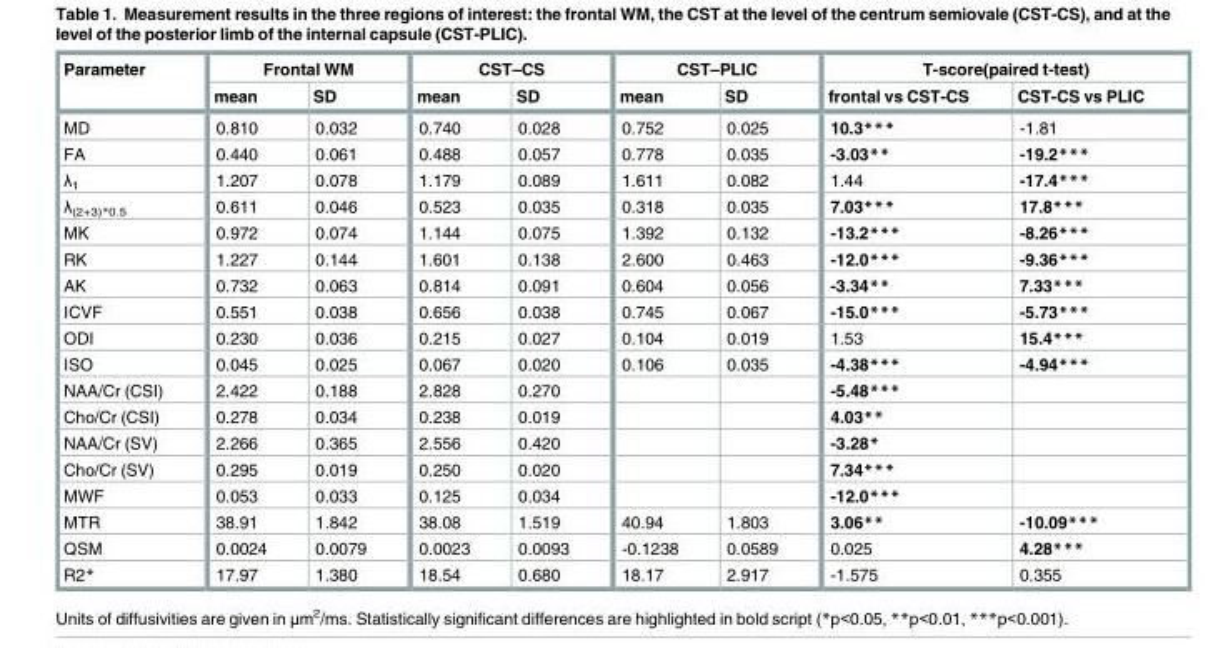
<table><thead><tr><td rowspan="2">Parameter</td><td colspan="2">Frontal WM</td><td colspan="2">CST–CS</td><td colspan="2">CST–PLIC</td><td colspan="2">T-score(paired t-test)</td></tr><tr><td>mean</td><td>SD</td><td>mean</td><td>SD</td><td>mean</td><td>SD</td><td>frontal vs CST-CS</td><td>CST-CS vs PLIC</td></tr></thead><tbody><tr><td>MD</td><td>0.810</td><td>0.032</td><td>0.740</td><td>0.028</td><td>0.752</td><td>0.025</td><td>10.3***</td><td>-1.81</td></tr><tr><td>FA</td><td>0.440</td><td>0.061</td><td>0.488</td><td>0.057</td><td>0.778</td><td>0.035</td><td>-3.03**</td><td>-19.2***</td></tr><tr><td>λ<sub>1</sub></td><td>1.207</td><td>0.078</td><td>1.179</td><td>0.089</td><td>1.611</td><td>0.082</td><td>1.44</td><td>-17.4***</td></tr><tr><td>λ<sub>(2+3)*0.5</sub></td><td>0.611</td><td>0.046</td><td>0.523</td><td>0.035</td><td>0.318</td><td>0.035</td><td>7.03***</td><td>17.8***</td></tr><tr><td>MK</td><td>0.972</td><td>0.074</td><td>1.144</td><td>0.075</td><td>1.392</td><td>0.132</td><td>-13.2***</td><td>-8.26***</td></tr><tr><td>RK</td><td>1.227</td><td>0.144</td><td>1.601</td><td>0.138</td><td>2.600</td><td>0.463</td><td>-12.0***</td><td>-9.36***</td></tr><tr><td>AK</td><td>0.732</td><td>0.063</td><td>0.814</td><td>0.091</td><td>0.604</td><td>0.056</td><td>-3.34**</td><td>7.33***</td></tr><tr><td>ICVF</td><td>0.551</td><td>0.038</td><td>0.656</td><td>0.038</td><td>0.745</td><td>0.067</td><td>-15.0***</td><td>-5.73***</td></tr><tr><td>ODI</td><td>0.230</td><td>0.036</td><td>0.215</td><td>0.027</td><td>0.104</td><td>0.019</td><td>1.53</td><td>15.4***</td></tr><tr><td>ISO</td><td>0.045</td><td>0.025</td><td>0.067</td><td>0.020</td><td>0.106</td><td>0.035</td><td>-4.38***</td><td>-4.94***</td></tr><tr><td>NAA/Cr (CSI)</td><td>2.422</td><td>0.188</td><td>2.828</td><td>0.270</td><td></td><td></td><td>-5.48***</td><td></td></tr><tr><td>Cho/Cr (CSI)</td><td>0.278</td><td>0.034</td><td>0.238</td><td>0.019</td><td></td><td></td><td>4.03**</td><td></td></tr><tr><td>NAA/Cr (SV)</td><td>2.266</td><td>0.365</td><td>2.556</td><td>0.420</td><td></td><td></td><td>-3.28*</td><td></td></tr><tr><td>Cho/Cr (SV)</td><td>0.295</td><td>0.019</td><td>0.250</td><td>0.020</td><td></td><td></td><td>7.34***</td><td></td></tr><tr><td>MWF</td><td>0.053</td><td>0.033</td><td>0.125</td><td>0.034</td><td></td><td></td><td>-12.0***</td><td></td></tr><tr><td>MTR</td><td>38.91</td><td>1.842</td><td>38.08</td><td>1.519</td><td>40.94</td><td>1.803</td><td>3.06**</td><td>-10.09***</td></tr><tr><td>QSM</td><td>0.0024</td><td>0.0079</td><td>0.0023</td><td>0.0093</td><td>-0.1238</td><td>0.0589</td><td>0.025</td><td>4.28***</td></tr><tr><td>R2*</td><td>17.97</td><td>1.380</td><td>18.54</td><td>0.680</td><td>18.17</td><td>2.917</td><td>-1.575</td><td>0.355</td></tr></tbody></table>